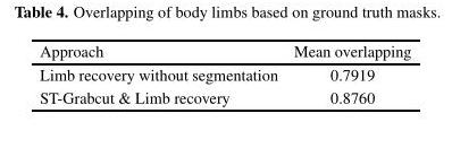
<table><thead><tr><td>Approach</td><td>Mean overlapping</td></tr></thead><tbody><tr><td>Limb recovery without segmentation</td><td>0.7919</td></tr><tr><td>ST-Grabcut &amp; Limb recovery</td><td>0.8760</td></tr></tbody></table>